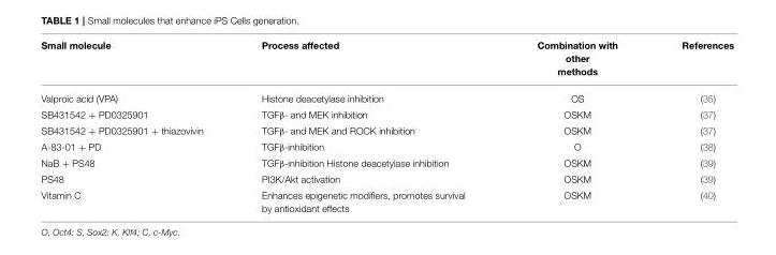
<table><thead><tr><td>Small molecule</td><td>Process affected</td><td>Combination with other methods</td><td>References</td></tr></thead><tbody><tr><td>Valproic acid (VPA)</td><td>Histone deacetylase inhibition</td><td>OS</td><td>(35)</td></tr><tr><td>SB431542 + PD0325901</td><td>TGFβ- and MEK inhibition</td><td>OSKM</td><td>(37)</td></tr><tr><td>SB431542 + PD0325901 + thiazovivin</td><td>TGFβ- and MEK and ROCK inhibition</td><td>OSKM</td><td>(37)</td></tr><tr><td>A-83-01 + PD</td><td>TGFβ-inhibition</td><td>O</td><td>(38)</td></tr><tr><td>NaB + PS48</td><td>TGFβ-inhibition Histone deacetylase inhibition</td><td>OSKM</td><td>(39)</td></tr><tr><td>PS48</td><td>PI3K/Akt activation</td><td>OSKM</td><td>(39)</td></tr><tr><td>Vitamin C</td><td>Enhances epigenetic modifiers, promotes survival by antioxidant effects</td><td>OSKM</td><td>(40)</td></tr></tbody></table>